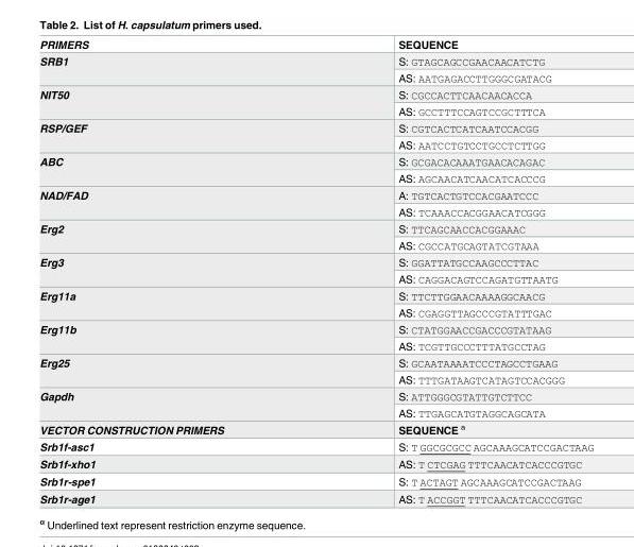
<table><tbody><tr><td>PRIMERS</td><td>SEQUENCE</td></tr><tr><td rowspan="2">SRB1</td><td>S: GTAGCAGCCGAACAACATCTG</td></tr><tr><td>AS: AATGAGACCTTGGGCGATACG</td></tr><tr><td rowspan="2">NIT50</td><td>S: CGCCACTTCAACAACACCA</td></tr><tr><td>AS: GCCTTTCCAGTCCGCTTTCA</td></tr><tr><td rowspan="2">RSP/GEF</td><td>S: CGTCACTCATCAATCCACGG</td></tr><tr><td>AS: AATCCTGTCCTGCCTCTTGG</td></tr><tr><td rowspan="2">ABC</td><td>S: GCGACACAAATGAACACAGAC</td></tr><tr><td>AS: AGCAACATCAACATCACCCG</td></tr><tr><td rowspan="2">NAD/FAD</td><td>A: TGTCACTGTCCACGAATCCC</td></tr><tr><td>AS: TCAAACCACGGAACATCGGG</td></tr><tr><td rowspan="2">Erg2</td><td>S: TTCAGCAACCACGGAAAC</td></tr><tr><td>AS: CGCCATGCAGTATCGTAAA</td></tr><tr><td rowspan="2">Erg3</td><td>S: GGATTATGCCAAGCCCTTAC</td></tr><tr><td>AS: CAGGACAGTCCAGATGTTAATG</td></tr><tr><td rowspan="2">Erg11a</td><td>S: TTCTTGGAACAAAAGGCAACG</td></tr><tr><td>AS: CGAGGTTAGCCCGTATTTGAC</td></tr><tr><td rowspan="2">Erg11b</td><td>S: CTATGGAACCGACCCGTATAAG</td></tr><tr><td>AS: TCGTTGCCCTTTATGCCTAG</td></tr><tr><td rowspan="2">Erg25</td><td>S: GCAATAAAATCCCTAGCCTGAAG</td></tr><tr><td>AS: TTTGATAAGTCATAGTCCACGGG</td></tr><tr><td rowspan="2">Gapdh</td><td>S: ATTGGGCGTATTGTCTTCC</td></tr><tr><td>AS: TTGAGCATGTAGGCAGCATA</td></tr><tr><td>VECTOR CONSTRUCTION PRIMERS</td><td>SEQUENCE <sup>a</sup></td></tr><tr><td>Srb1f-asc1</td><td>S: T GGCGCGCC AGCAAAGCATCCGACTAAG</td></tr><tr><td>Srb1f-xho1</td><td>AS: T CTCGAG TTTCAACATCACCCGTGC</td></tr><tr><td>Srb1r-spe1</td><td>S: T ACTAGT AGCAAAGCATCCGACTAAG</td></tr><tr><td>Srb1r-age1</td><td>AS: T ACCGGT TTTCAACATCACCCGTGC</td></tr></tbody></table>